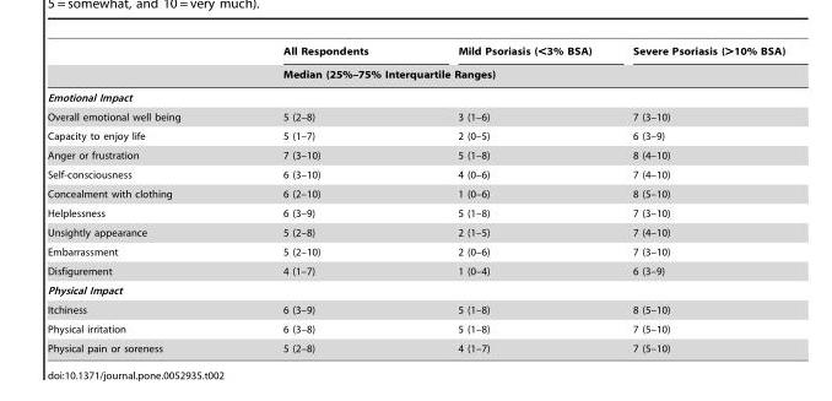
<table><thead><tr><td rowspan="2"></td><td>All Respondents</td><td>Mild Psoriasis (&lt;3% BSA)</td><td>Severe Psoriasis (&gt;10% BSA)</td></tr><tr><td colspan="3">Median (25%–75% Interquartile Ranges)</td></tr></thead><tbody><tr><td colspan="4">Emotional Impact</td></tr><tr><td>Overall emotional well being</td><td>5 (2–8)</td><td>3 (1–6)</td><td>7 (3–10)</td></tr><tr><td>Capacity to enjoy life</td><td>5 (1–7)</td><td>2 (0–5)</td><td>6 (3–9)</td></tr><tr><td>Anger or frustration</td><td>7 (3–10)</td><td>5 (1–8)</td><td>8 (4–10)</td></tr><tr><td>Self-consciousness</td><td>6 (3–10)</td><td>4 (0–6)</td><td>7 (4–10)</td></tr><tr><td>Concealment with clothing</td><td>6 (2–10)</td><td>1 (0–6)</td><td>8 (5–10)</td></tr><tr><td>Helplessness</td><td>6 (3–9)</td><td>5 (1–8)</td><td>7 (3–10)</td></tr><tr><td>Unsightly appearance</td><td>5 (2–8)</td><td>2 (1–5)</td><td>7 (4–10)</td></tr><tr><td>Embarrassment</td><td>5 (2–10)</td><td>2 (0–6)</td><td>7 (3–10)</td></tr><tr><td>Disfigurement</td><td>4 (1–7)</td><td>1 (0–4)</td><td>6 (3–9)</td></tr><tr><td colspan="4">Physical Impact</td></tr><tr><td>Itchiness</td><td>6 (3–9)</td><td>5 (1–8)</td><td>8 (5–10)</td></tr><tr><td>Physical irritation</td><td>6 (3–8)</td><td>5 (1–8)</td><td>7 (5–10)</td></tr><tr><td>Physical pain or soreness</td><td>5 (2–8)</td><td>4 (1–7)</td><td>7 (5–10)</td></tr></tbody></table>